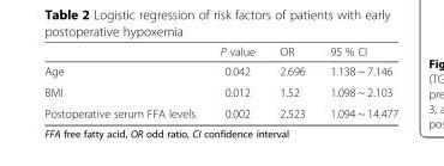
<table><thead><tr><td></td><td>P value</td><td>OR</td><td>95 % CI</td></tr></thead><tbody><tr><td>Age</td><td>0.042</td><td>2.696</td><td>1.138 ~ 7.146</td></tr><tr><td>BMI</td><td>0.012</td><td>1.52</td><td>1.098 ~ 2.103</td></tr><tr><td>Postoperative serum FFA levels</td><td>0.002</td><td>2.523</td><td>1.094 ~ 14.477</td></tr></tbody></table>